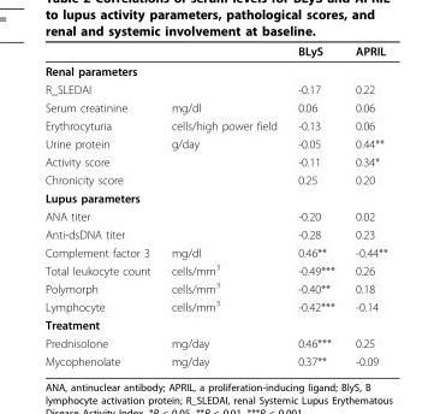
<table><thead><tr><td></td><td></td><td>BLyS</td><td>APRIL</td></tr></thead><tbody><tr><td colspan="4">Renal parameters</td></tr><tr><td>R_SLEDAI</td><td></td><td>-0.17</td><td>0.22</td></tr><tr><td>Serum creatinine</td><td>mg/dl</td><td>0.06</td><td>0.06</td></tr><tr><td>Erythrocyturia</td><td>cells/high power field</td><td>-0.13</td><td>0.06</td></tr><tr><td>Urine protein</td><td>g/day</td><td>-0.05</td><td>0.44**</td></tr><tr><td>Activity score</td><td></td><td>-0.11</td><td>0.34*</td></tr><tr><td>Chronicity score</td><td></td><td>0.25</td><td>0.20</td></tr><tr><td colspan="4">Lupus parameters</td></tr><tr><td>ANA titer</td><td></td><td>-0.20</td><td>0.02</td></tr><tr><td>Anti-dsDNA titer</td><td></td><td>-0.28</td><td>0.23</td></tr><tr><td>Complement factor 3</td><td>mg/dl</td><td>0.46**</td><td>-0.44**</td></tr><tr><td>Total leukocyte count</td><td>cells/mm<sup>3</sup></td><td>-0.49***</td><td>0.26</td></tr><tr><td>Polymorph</td><td>cells/mm<sup>3</sup></td><td>-0.40**</td><td>0.18</td></tr><tr><td>Lymphocyte</td><td>cells/mm<sup>3</sup></td><td>-0.42***</td><td>-0.14</td></tr><tr><td colspan="4">Treatment</td></tr><tr><td>Prednisolone</td><td>mg/day</td><td>0.46***</td><td>0.25</td></tr><tr><td>Mycophenolate</td><td>mg/day</td><td>0.37**</td><td>-0.09</td></tr></tbody></table>